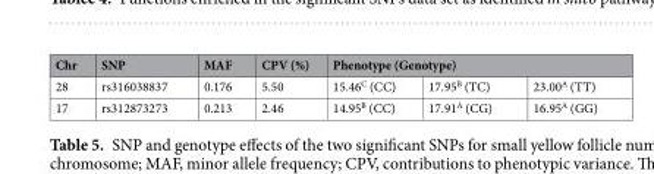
<table><thead><tr><td rowspan="2">Chr 28</td><td rowspan="2">SNP rs316038837</td><td rowspan="2">MAF 0.176</td><td rowspan="2">CPV (%) 5.50</td><td colspan="3">Phenotype (Genotype)</td></tr><tr><td>15.46<sup>C</sup> (CC)</td><td>17.95<sup>B</sup> (TC)</td><td>23.00<sup>A</sup> (TT)</td></tr></thead><tbody><tr><td>17</td><td>rs312873273</td><td>0.213</td><td>2.46</td><td>14.95<sup>B</sup> (CC)</td><td>17.91<sup>A</sup> (CG)</td><td>16.95<sup>A</sup> (GG)</td></tr></tbody></table>